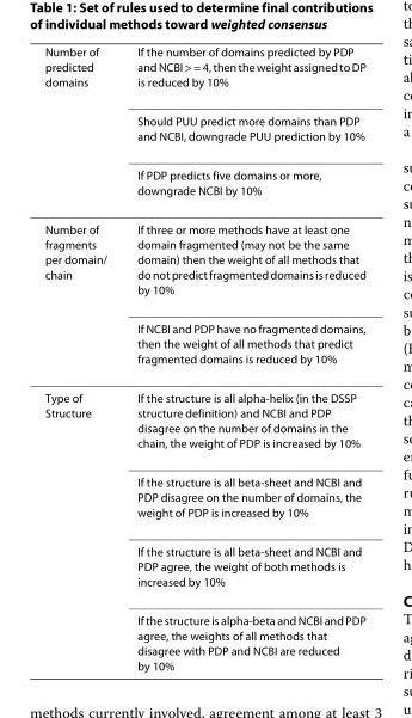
<table><thead><tr><td rowspan="3">Number of predicted domains</td><td rowspan="3">If the number of domains predicted by PDP and NCBI &gt; = 4, then the weight assigned to DP is reduced by 10% Should PUU predict more domains than PDP and NCBI, downgrade PUU prediction by 10% If PDP predicts five domains or more, downgrade NCBI by 10%</td></tr><tr></tr><tr></tr></thead><tbody><tr><td rowspan="2">Number of fragments per domain/ chain</td><td>If three or more methods have at least one domain fragmented (may not be the same domain) then the weight of all methods that do not predict fragmented domains is reduced by 10%</td></tr><tr><td>If NCBI and PDP have no fragmented domains, then the weight of all methods that predict fragmented domains is reduced by 10%</td></tr><tr><td rowspan="4">Type of Structure</td><td>If the structure is all alpha-helix (in the DSSP structure definition) and NCBI and PDP disagree on the number of domains in the chain, the weight of PDP is increased by 10%</td></tr><tr><td>If the structure is all beta-sheet and NCBI and PDP disagree on the number of domains, the weight of PDP is increased by 10%</td></tr><tr><td>If the structure is all beta-sheet and NCBI and PDP agree, the weight of both methods is increased by 10%</td></tr><tr><td>If the structure is alpha-beta and NCBI and PDP agree, the weights of all methods that disagree with PDP and NCBI are reduced by 10%</td></tr></tbody></table>